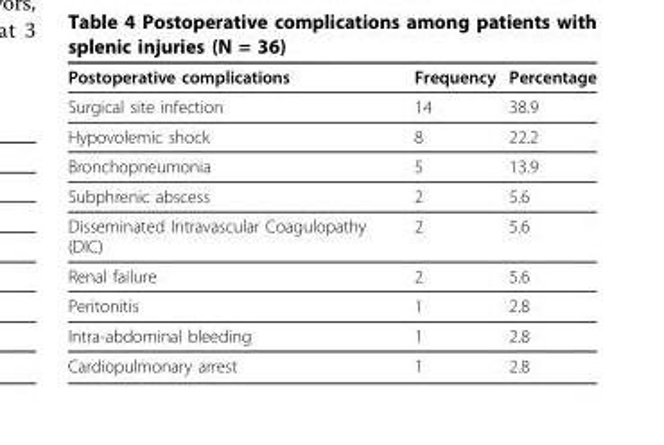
<table><thead><tr><td>Postoperative complications</td><td>Frequency</td><td>Percentage</td></tr></thead><tbody><tr><td>Surgical site infection</td><td>14</td><td>38.9</td></tr><tr><td>Hypovolemic shock</td><td>8</td><td>22.2</td></tr><tr><td>Bronchopneumonia</td><td>5</td><td>13.9</td></tr><tr><td>Subphrenic abscess</td><td>2</td><td>5.6</td></tr><tr><td>Disseminated Intravascular Coagulopathy (DIC)</td><td>2</td><td>5.6</td></tr><tr><td>Renal failure</td><td>2</td><td>5.6</td></tr><tr><td>Peritonitis</td><td>1</td><td>2.8</td></tr><tr><td>Intra-abdominal bleeding</td><td>1</td><td>2.8</td></tr><tr><td>Cardiopulmonary arrest</td><td>1</td><td>2.8</td></tr></tbody></table>